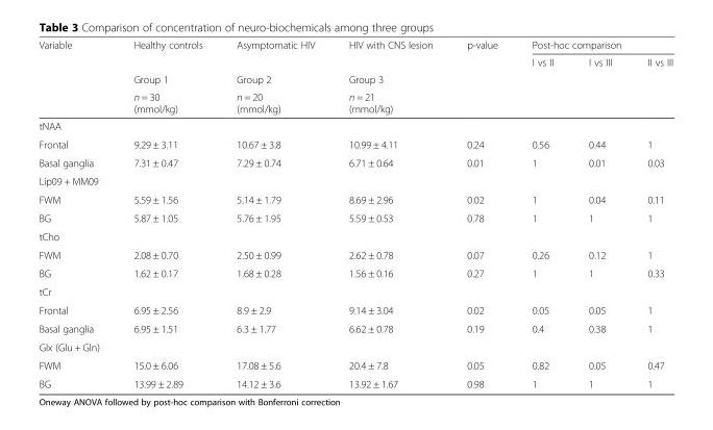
<table><thead><tr><td rowspan="4">Variable</td><td rowspan="4">Healthy controls Group 1 n = 30 (mmol/kg)</td><td rowspan="4">Asymptomatic HIV Group 2 n = 20 (mmol/kg)</td><td rowspan="4">HIV with CNS lesion Group 3 n = 21 (mmol/kg)</td><td rowspan="4">p-value</td><td colspan="3">Post-hoc comparison</td></tr><tr><td rowspan="3">I vs II</td><td rowspan="3">I vs III</td><td rowspan="3">II vs III</td></tr><tr></tr><tr></tr></thead><tbody><tr><td colspan="8">tNAA</td></tr><tr><td>Frontal</td><td>9.29 ± 3.11</td><td>10.67 ± 3.8</td><td>10.99 ± 4.11</td><td>0.24</td><td>0.56</td><td>0.44</td><td>1</td></tr><tr><td>Basal ganglia</td><td>7.31 ± 0.47</td><td>7.29 ± 0.74</td><td>6.71 ± 0.64</td><td>0.01</td><td>1</td><td>0.01</td><td>0.03</td></tr><tr><td colspan="8">Lip09 + MM09</td></tr><tr><td>FWM</td><td>5.59 ± 1.56</td><td>5.14 ± 1.79</td><td>8.69 ± 2.96</td><td>0.02</td><td>1</td><td>0.04</td><td>0.11</td></tr><tr><td>BG</td><td>5.87 ± 1.05</td><td>5.76 ± 1.95</td><td>5.59 ± 0.53</td><td>0.78</td><td>1</td><td>1</td><td>1</td></tr><tr><td colspan="8">tCho</td></tr><tr><td>FWM</td><td>2.08 ± 0.70</td><td>2.50 ± 0.99</td><td>2.62 ± 0.78</td><td>0.07</td><td>0.26</td><td>0.12</td><td>1</td></tr><tr><td>BG</td><td>1.62 ± 0.17</td><td>1.68 ± 0.28</td><td>1.56 ± 0.16</td><td>0.27</td><td>1</td><td>1</td><td>0.33</td></tr><tr><td colspan="8">tCr</td></tr><tr><td>Frontal</td><td>6.95 ± 2.56</td><td>8.9 ± 2.9</td><td>9.14 ± 3.04</td><td>0.02</td><td>0.05</td><td>0.05</td><td>1</td></tr><tr><td>Basal ganglia</td><td>6.95 ± 1.51</td><td>6.3 ± 1.77</td><td>6.62 ± 0.78</td><td>0.19</td><td>0.4</td><td>0.38</td><td>1</td></tr><tr><td colspan="8">Glx (Glu + Gln)</td></tr><tr><td>FWM</td><td>15.0 ± 6.06</td><td>17.08 ± 5.6</td><td>20.4 ± 7.8</td><td>0.05</td><td>0.82</td><td>0.05</td><td>0.47</td></tr><tr><td>BG</td><td>13.99 ± 2.89</td><td>14.12 ± 3.6</td><td>13.92 ± 1.67</td><td>0.98</td><td>1</td><td>1</td><td>1</td></tr></tbody></table>